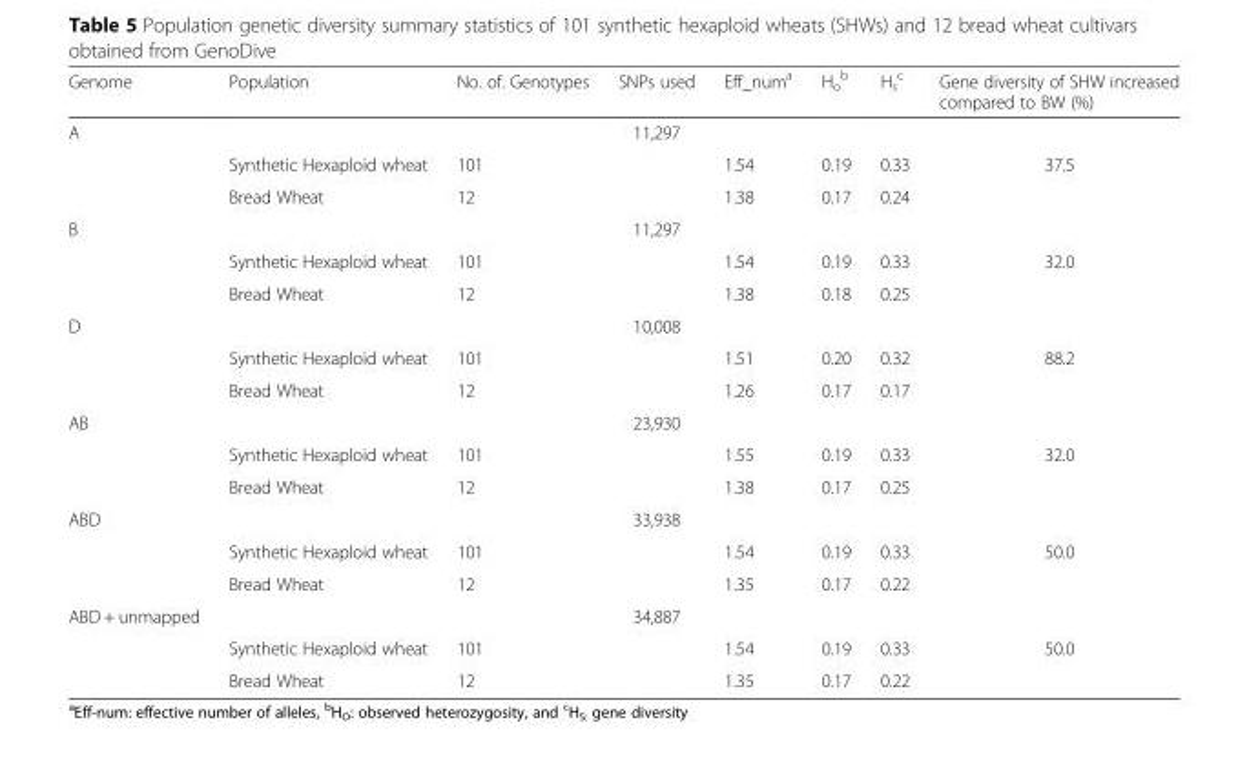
<table><thead><tr><td>Genome</td><td>Population</td><td>No. of. Genotypes</td><td>SNPs used</td><td>Eff_num<sup>a</sup></td><td>H<sub>o</sub> <sup>b</sup></td><td>H<sub>s</sub> <sup>c</sup></td><td>Gene diversity of SHW increased compared to BW (%)</td></tr></thead><tbody><tr><td rowspan="3">A</td><td></td><td></td><td>11,297</td><td></td><td></td><td></td><td></td></tr><tr><td>Synthetic Hexaploid wheat</td><td>101</td><td></td><td>1.54</td><td>0.19</td><td>0.33</td><td>37.5</td></tr><tr><td>Bread Wheat</td><td>12</td><td></td><td>1.38</td><td>0.17</td><td>0.24</td><td></td></tr><tr><td rowspan="3">B</td><td></td><td></td><td>11,297</td><td></td><td></td><td></td><td></td></tr><tr><td>Synthetic Hexaploid wheat</td><td>101</td><td></td><td>1.54</td><td>0.19</td><td>0.33</td><td>32.0</td></tr><tr><td>Bread Wheat</td><td>12</td><td></td><td>1.38</td><td>0.18</td><td>0.25</td><td></td></tr><tr><td rowspan="3">D</td><td></td><td></td><td>10,008</td><td></td><td></td><td></td><td></td></tr><tr><td>Synthetic Hexaploid wheat</td><td>101</td><td></td><td>1.51</td><td>0.20</td><td>0.32</td><td>88.2</td></tr><tr><td>Bread Wheat</td><td>12</td><td></td><td>1.26</td><td>0.17</td><td>0.17</td><td></td></tr><tr><td rowspan="3">AB</td><td></td><td></td><td>23,930</td><td></td><td></td><td></td><td></td></tr><tr><td>Synthetic Hexaploid wheat</td><td>101</td><td></td><td>1.55</td><td>0.19</td><td>0.33</td><td>32.0</td></tr><tr><td>Bread Wheat</td><td>12</td><td></td><td>1.38</td><td>0.17</td><td>0.25</td><td></td></tr><tr><td rowspan="3">ABD</td><td></td><td></td><td>33,938</td><td></td><td></td><td></td><td></td></tr><tr><td>Synthetic Hexaploid wheat</td><td>101</td><td></td><td>1.54</td><td>0.19</td><td>0.33</td><td>50.0</td></tr><tr><td>Bread Wheat</td><td>12</td><td></td><td>1.35</td><td>0.17</td><td>0.22</td><td></td></tr><tr><td rowspan="3">ABD + unmapped</td><td></td><td></td><td>34,887</td><td></td><td></td><td></td><td></td></tr><tr><td>Synthetic Hexaploid wheat</td><td>101</td><td></td><td>1.54</td><td>0.19</td><td>0.33</td><td>50.0</td></tr><tr><td>Bread Wheat</td><td>12</td><td></td><td>1.35</td><td>0.17</td><td>0.22</td><td></td></tr></tbody></table>